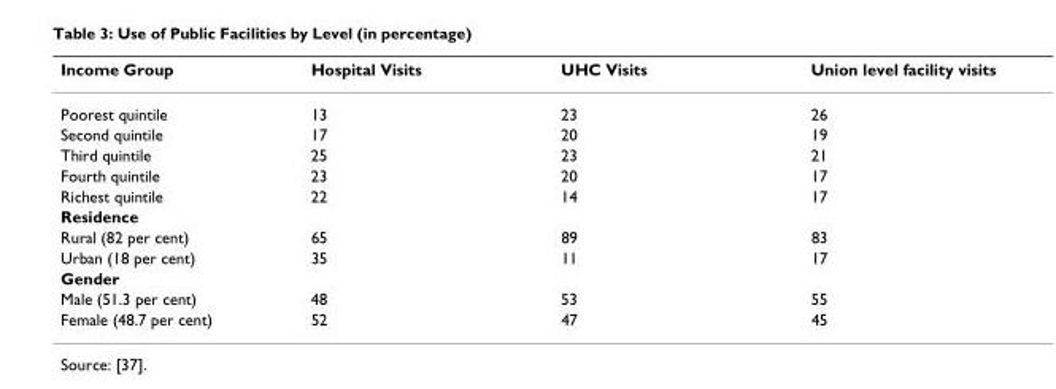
<table><thead><tr><td>Income Group</td><td>Hospital Visits</td><td>UHC Visits</td><td>Union level facility visits</td></tr></thead><tbody><tr><td>Poorest quintile</td><td>13</td><td>23</td><td>26</td></tr><tr><td>Second quintile</td><td>17</td><td>20</td><td>19</td></tr><tr><td>Third quintile</td><td>25</td><td>23</td><td>21</td></tr><tr><td>Fourth quintile</td><td>23</td><td>20</td><td>17</td></tr><tr><td>Richest quintile</td><td>22</td><td>14</td><td>17</td></tr><tr><td colspan="4">Residence</td></tr><tr><td>Rural (82 per cent)</td><td>65</td><td>89</td><td>83</td></tr><tr><td>Urban (18 per cent)</td><td>35</td><td>11</td><td>17</td></tr><tr><td colspan="4">Gender</td></tr><tr><td>Male (51.3 per cent)</td><td>48</td><td>53</td><td>55</td></tr><tr><td>Female (48.7 per cent)</td><td>52</td><td>47</td><td>45</td></tr></tbody></table>